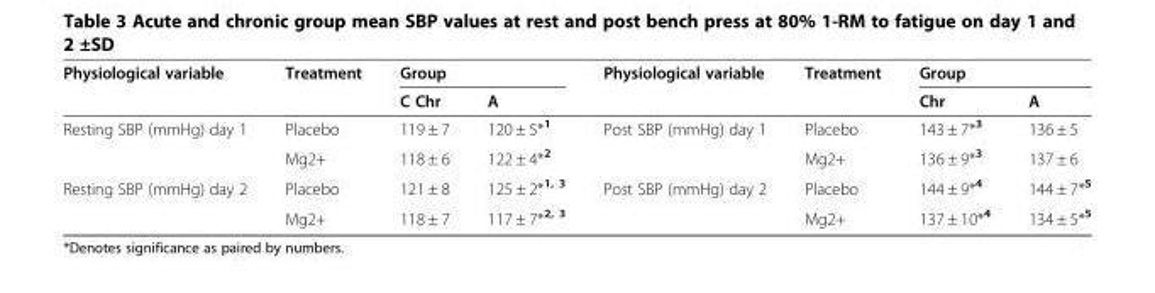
<table><thead><tr><td rowspan="2">Physiological variable</td><td rowspan="2">Treatment</td><td colspan="2">Group</td><td rowspan="2">Physiological variable</td><td rowspan="2">Treatment</td><td colspan="2">Group</td></tr><tr><td>C Chr</td><td>A</td><td>Chr</td><td>A</td></tr></thead><tbody><tr><td rowspan="2">Resting SBP (mmHg) day 1</td><td>Placebo</td><td>119 ± 7</td><td>120 ± 5*<sup>1</sup></td><td>Post SBP (mmHg) day 1</td><td>Placebo</td><td>143 ± 7*<sup>3</sup></td><td>136 ± 5</td></tr><tr><td>Mg2+</td><td>118 ± 6</td><td>122 ± 4*<sup>2</sup></td><td></td><td>Mg2+</td><td>136 ± 9*<sup>3</sup></td><td>137 ± 6</td></tr><tr><td rowspan="2">Resting SBP (mmHg) day 2</td><td>Placebo</td><td>121 ± 8</td><td>125 ± 2*<sup>1, 3</sup></td><td>Post SBP (mmHg) day 2</td><td>Placebo</td><td>144 ± 9*<sup>4</sup></td><td>144 ± 7*<sup>5</sup></td></tr><tr><td>Mg2+</td><td>118 ± 7</td><td>117 ± 7*<sup>2, 3</sup></td><td></td><td>Mg2+</td><td>137 ± 10*<sup>4</sup></td><td>134 ± 5*<sup>5</sup></td></tr></tbody></table>